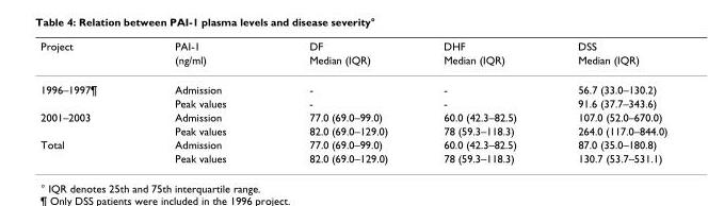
<table><thead><tr><td rowspan="2">Project</td><td rowspan="2">PAI-1 (ng/ml)</td><td rowspan="2">DF Median (IQR)</td><td rowspan="2">DHF Median (IQR)</td><td rowspan="2">DSS Median (IQR)</td></tr><tr></tr></thead><tbody><tr><td rowspan="2">1996–1997¶</td><td>Admission</td><td>-</td><td>-</td><td>56.7 (33.0–130.2)</td></tr><tr><td>Peak values</td><td>-</td><td>-</td><td>91.6 (37.7–343.6)</td></tr><tr><td rowspan="2">2001–2003</td><td>Admission</td><td>77.0 (69.0–99.0)</td><td>60.0 (42.3–82.5)</td><td>107.0 (52.0–670.0)</td></tr><tr><td>Peak values</td><td>82.0 (69.0–129.0)</td><td>78 (59.3–118.3)</td><td>264.0 (117.0–844.0)</td></tr><tr><td rowspan="2">Total</td><td>Admission</td><td>77.0 (69.0–99.0)</td><td>60.0 (42.3–82.5)</td><td>87.0 (35.0–180.8)</td></tr><tr><td>Peak values</td><td>82.0 (69.0–129.0)</td><td>78 (59.3–118.3)</td><td>130.7 (53.7–531.1)</td></tr></tbody></table>